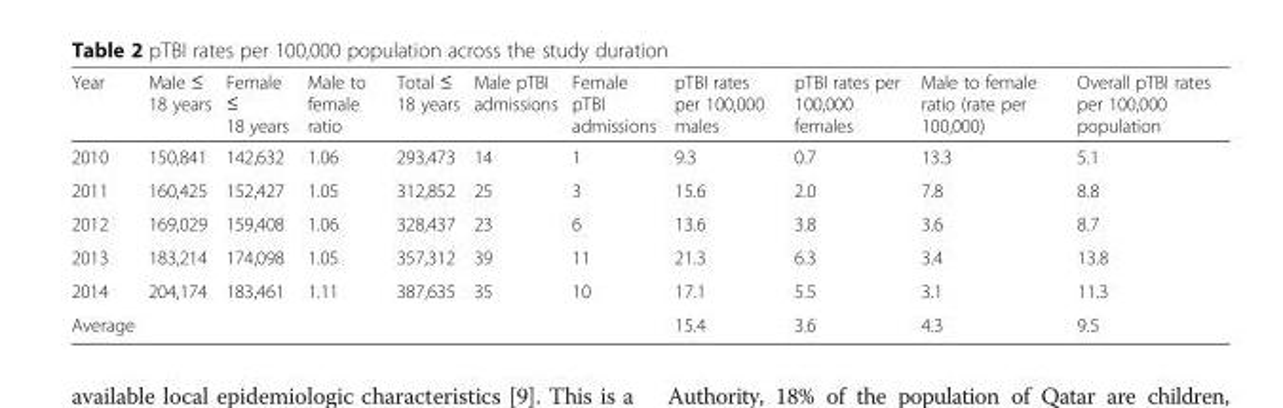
<table><thead><tr><td>Year</td><td>Male ≤ 18 years</td><td>Female ≤ 18 years</td><td>Male to female ratio</td><td>Total ≤ 18 years</td><td>Male pTBI admissions</td><td>Female pTBI admissions</td><td>pTBI rates per 100,000 males</td><td>pTBI rates per 100,000 females</td><td>Male to female ratio (rate per 100,000)</td><td>Overall pTBI rates per 100,000 population</td></tr></thead><tbody><tr><td>2010</td><td>150,841</td><td>142,632</td><td>1.06</td><td>293,473</td><td>14</td><td>1</td><td>9.3</td><td>0.7</td><td>13.3</td><td>5.1</td></tr><tr><td>2011</td><td>160,425</td><td>152,427</td><td>1.05</td><td>312,852</td><td>25</td><td>3</td><td>15.6</td><td>2.0</td><td>7.8</td><td>8.8</td></tr><tr><td>2012</td><td>169,029</td><td>159,408</td><td>1.06</td><td>328,437</td><td>23</td><td>6</td><td>13.6</td><td>3.8</td><td>3.6</td><td>8.7</td></tr><tr><td>2013</td><td>183,214</td><td>174,098</td><td>1.05</td><td>357,312</td><td>39</td><td>11</td><td>21.3</td><td>6.3</td><td>3.4</td><td>13.8</td></tr><tr><td>2014</td><td>204,174</td><td>183,461</td><td>1.11</td><td>387,635</td><td>35</td><td>10</td><td>17.1</td><td>5.5</td><td>3.1</td><td>11.3</td></tr><tr><td>Average</td><td></td><td></td><td></td><td></td><td></td><td></td><td>15.4</td><td>3.6</td><td>4.3</td><td>9.5</td></tr></tbody></table>